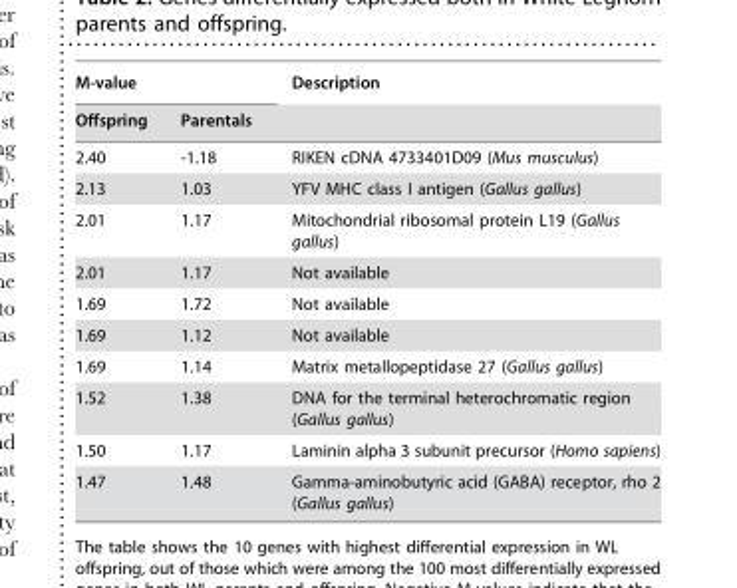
<table><thead><tr><td colspan="2">M-value</td><td rowspan="2">Description</td></tr><tr><td>Offspring</td><td>Parentals</td></tr></thead><tbody><tr><td>2.40</td><td>-1.18</td><td>RIKEN cDNA 4733401D09 (Mus musculus)</td></tr><tr><td>2.13</td><td>1.03</td><td>YFV MHC class I antigen (Gallus gallus)</td></tr><tr><td>2.01</td><td>1.17</td><td>Mitochondrial ribosomal protein L19 (Gallus gallus)</td></tr><tr><td>2.01</td><td>1.17</td><td>Not available</td></tr><tr><td>1.69</td><td>1.72</td><td>Not available</td></tr><tr><td>1.69</td><td>1.12</td><td>Not available</td></tr><tr><td>1.69</td><td>1.14</td><td>Matrix metallopeptidase 27 (Gallus gallus)</td></tr><tr><td>1.52</td><td>1.38</td><td>DNA for the terminal heterochromatic region (Gallus gallus)</td></tr><tr><td>1.50</td><td>1.17</td><td>Laminin alpha 3 subunit precursor (Homo sapiens)</td></tr><tr><td>1.47</td><td>1.48</td><td>Gamma-aminobutyric acid (GABA) receptor, rho 2 (Gallus gallus)</td></tr></tbody></table>